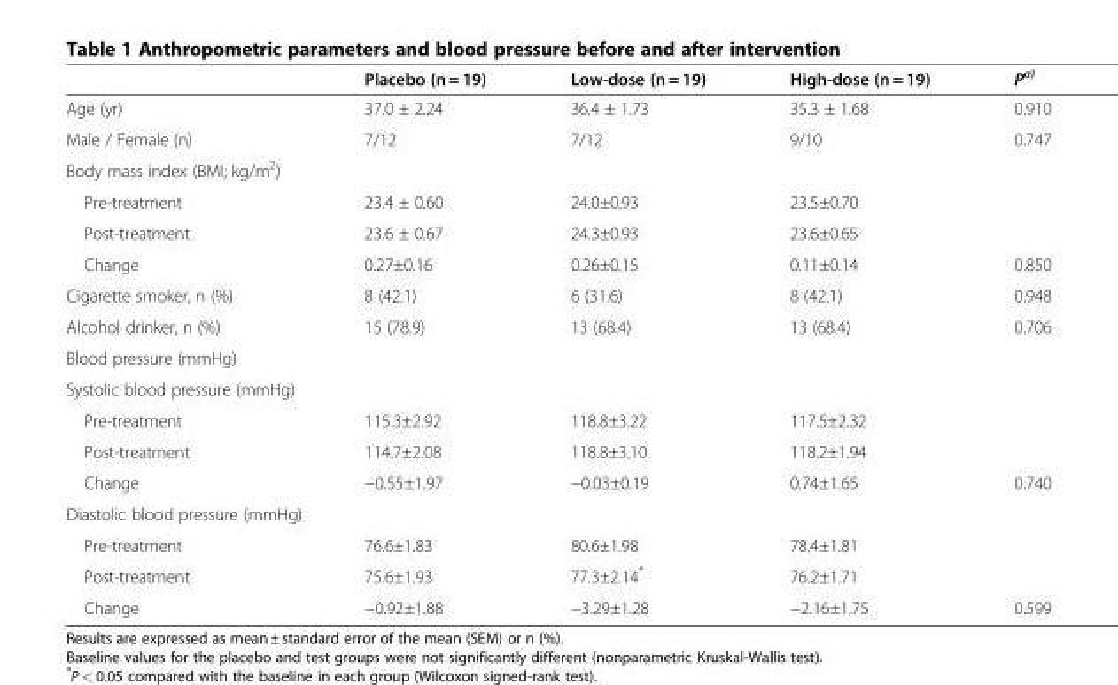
<table><thead><tr><td></td><td>Placebo (n = 19)</td><td>Low-dose (n = 19)</td><td>High-dose (n = 19)</td><td>P<sup>a)</sup></td></tr></thead><tbody><tr><td>Age (yr)</td><td>37.0 ± 2.24</td><td>36.4 ± 1.73</td><td>35.3 ± 1.68</td><td>0.910</td></tr><tr><td>Male / Female (n)</td><td>7/12</td><td>7/12</td><td>9/10</td><td>0.747</td></tr><tr><td colspan="5">Body mass index (BMI; kg/m<sup>2</sup>)</td></tr><tr><td>Pre-treatment</td><td>23.4 ± 0.60</td><td>24.0±0.93</td><td>23.5±0.70</td><td></td></tr><tr><td>Post-treatment</td><td>23.6 ± 0.67</td><td>24.3±0.93</td><td>23.6±0.65</td><td></td></tr><tr><td>Change</td><td>0.27±0.16</td><td>0.26±0.15</td><td>0.11±0.14</td><td>0.850</td></tr><tr><td>Cigarette smoker, n (%)</td><td>8 (42.1)</td><td>6 (31.6)</td><td>8 (42.1)</td><td>0.948</td></tr><tr><td>Alcohol drinker, n (%)</td><td>15 (78.9)</td><td>13 (68.4)</td><td>13 (68.4)</td><td>0.706</td></tr><tr><td colspan="5">Blood pressure (mmHg)</td></tr><tr><td colspan="5">Systolic blood pressure (mmHg)</td></tr><tr><td>Pre-treatment</td><td>115.3±2.92</td><td>118.8±3.22</td><td>117.5±2.32</td><td></td></tr><tr><td>Post-treatment</td><td>114.7±2.08</td><td>118.8±3.10</td><td>118.2±1.94</td><td></td></tr><tr><td>Change</td><td>−0.55±1.97</td><td>−0.03±0.19</td><td>0.74±1.65</td><td>0.740</td></tr><tr><td colspan="5">Diastolic blood pressure (mmHg)</td></tr><tr><td>Pre-treatment</td><td>76.6±1.83</td><td>80.6±1.98</td><td>78.4±1.81</td><td></td></tr><tr><td>Post-treatment</td><td>75.6±1.93</td><td>77.3±2.14*</td><td>76.2±1.71</td><td></td></tr><tr><td>Change</td><td>−0.92±1.88</td><td>−3.29±1.28</td><td>−2.16±1.75</td><td>0.599</td></tr></tbody></table>